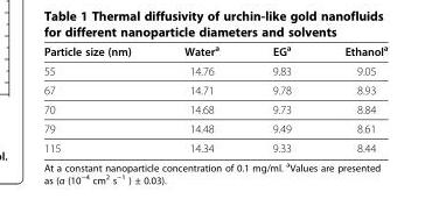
<table><thead><tr><td>Particle size (nm)</td><td>Water<sup>a</sup></td><td>EG<sup>a</sup></td><td>Ethanol<sup>a</sup></td></tr></thead><tbody><tr><td>55</td><td>14.76</td><td>9.83</td><td>9.05</td></tr><tr><td>67</td><td>14.71</td><td>9.78</td><td>8.93</td></tr><tr><td>70</td><td>14.68</td><td>9.73</td><td>8.84</td></tr><tr><td>79</td><td>14.48</td><td>9.49</td><td>8.61</td></tr><tr><td>115</td><td>14.34</td><td>9.33</td><td>8.44</td></tr></tbody></table>